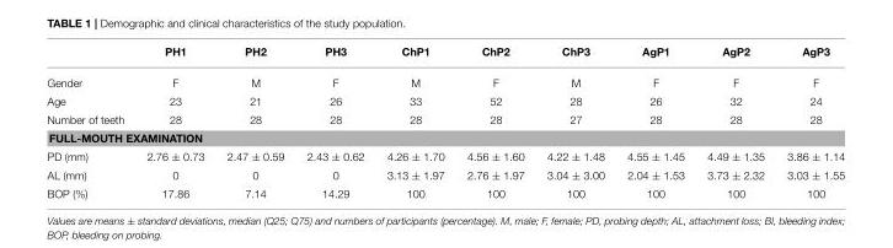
<table><thead><tr><td></td><td>PH1</td><td>PH2</td><td>PH3</td><td>ChP1</td><td>ChP2</td><td>ChP3</td><td>AgP1</td><td>AgP2</td><td>AgP3</td></tr></thead><tbody><tr><td>Gender</td><td>F</td><td>M</td><td>F</td><td>M</td><td>F</td><td>M</td><td>F</td><td>F</td><td>F</td></tr><tr><td>Age</td><td>23</td><td>21</td><td>26</td><td>33</td><td>52</td><td>28</td><td>26</td><td>32</td><td>24</td></tr><tr><td>Number of teeth</td><td>28</td><td>28</td><td>28</td><td>28</td><td>28</td><td>27</td><td>28</td><td>28</td><td>28</td></tr><tr><td colspan="10">FULL-MOUTH EXAMINATION</td></tr><tr><td>PD (mm)</td><td>2.76 ± 0.73</td><td>2.47 ± 0.59</td><td>2.43 ± 0.62</td><td>4.26 ± 1.70</td><td>4.56 ± 1.60</td><td>4.22 ± 1.48</td><td>4.55 ± 1.45</td><td>4.49 ± 1.35</td><td>3.86 ± 1.14</td></tr><tr><td>AL (mm)</td><td>0</td><td>0</td><td>0</td><td>3.13 ± 1.97</td><td>2.76 ± 1.97</td><td>3.04 ± 3.00</td><td>2.04 ± 1.53</td><td>3.73 ± 2.32</td><td>3.03 ± 1.55</td></tr><tr><td>BOP (%)</td><td>17.86</td><td>7.14</td><td>14.29</td><td>100</td><td>100</td><td>100</td><td>100</td><td>100</td><td>100</td></tr></tbody></table>